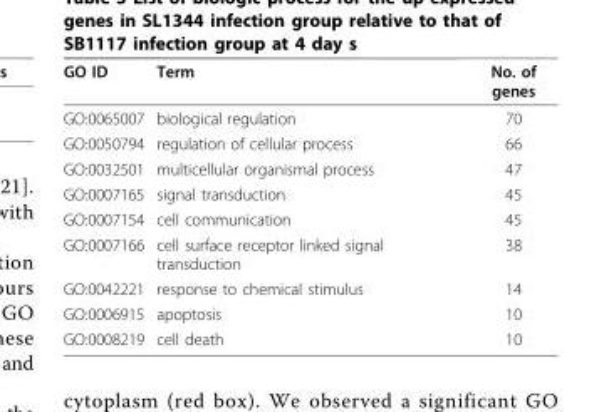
<table><thead><tr><td>GO ID</td><td>Term</td><td>No. of genes</td></tr></thead><tbody><tr><td>GO:0065007</td><td>biological regulation</td><td>70</td></tr><tr><td>GO:0050794</td><td>regulation of cellular process</td><td>66</td></tr><tr><td>GO:0032501</td><td>multicellular organismal process</td><td>47</td></tr><tr><td>GO:0007165</td><td>signal transduction</td><td>45</td></tr><tr><td>GO:0007154</td><td>cell communication</td><td>45</td></tr><tr><td>GO:0007166</td><td>cell surface receptor linked signal transduction</td><td>38</td></tr><tr><td>GO:0042221</td><td>response to chemical stimulus</td><td>14</td></tr><tr><td>GO:0006915</td><td>apoptosis</td><td>10</td></tr><tr><td>GO:0008219</td><td>cell death</td><td>10</td></tr></tbody></table>